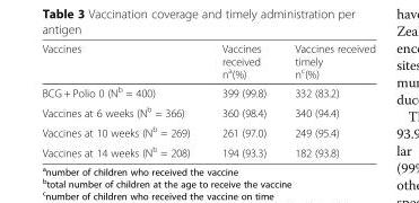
<table><thead><tr><td>Vaccines</td><td>Vaccines received n<sup>a</sup>(%)</td><td>Vaccines received timely n<sup>c</sup>(%)</td></tr></thead><tbody><tr><td>BCG + Polio 0 (N<sup>b</sup> = 400)</td><td>399 (99.8)</td><td>332 (83.2)</td></tr><tr><td>Vaccines at 6 weeks (N<sup>b</sup> = 366)</td><td>360 (98.4)</td><td>340 (94.4)</td></tr><tr><td>Vaccines at 10 weeks (N<sup>b</sup> = 269)</td><td>261 (97.0)</td><td>249 (95.4)</td></tr><tr><td>Vaccines at 14 weeks (N<sup>b</sup> = 208)</td><td>194 (93.3)</td><td>182 (93.8)</td></tr></tbody></table>